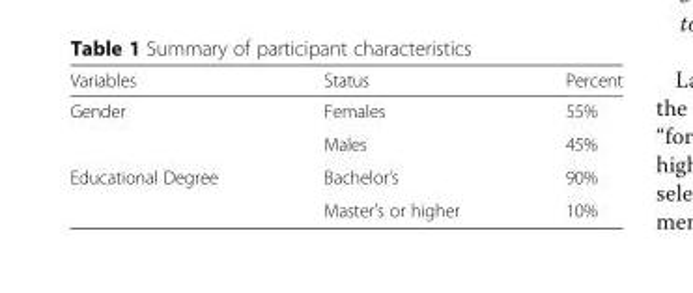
<table><thead><tr><td>Variables</td><td>Status</td><td>Percent</td></tr></thead><tbody><tr><td rowspan="2">Gender</td><td>Females</td><td>55%</td></tr><tr><td>Males</td><td>45%</td></tr><tr><td rowspan="2">Educational Degree</td><td>Bachelor’s</td><td>90%</td></tr><tr><td>Master’s or higher</td><td>10%</td></tr></tbody></table>